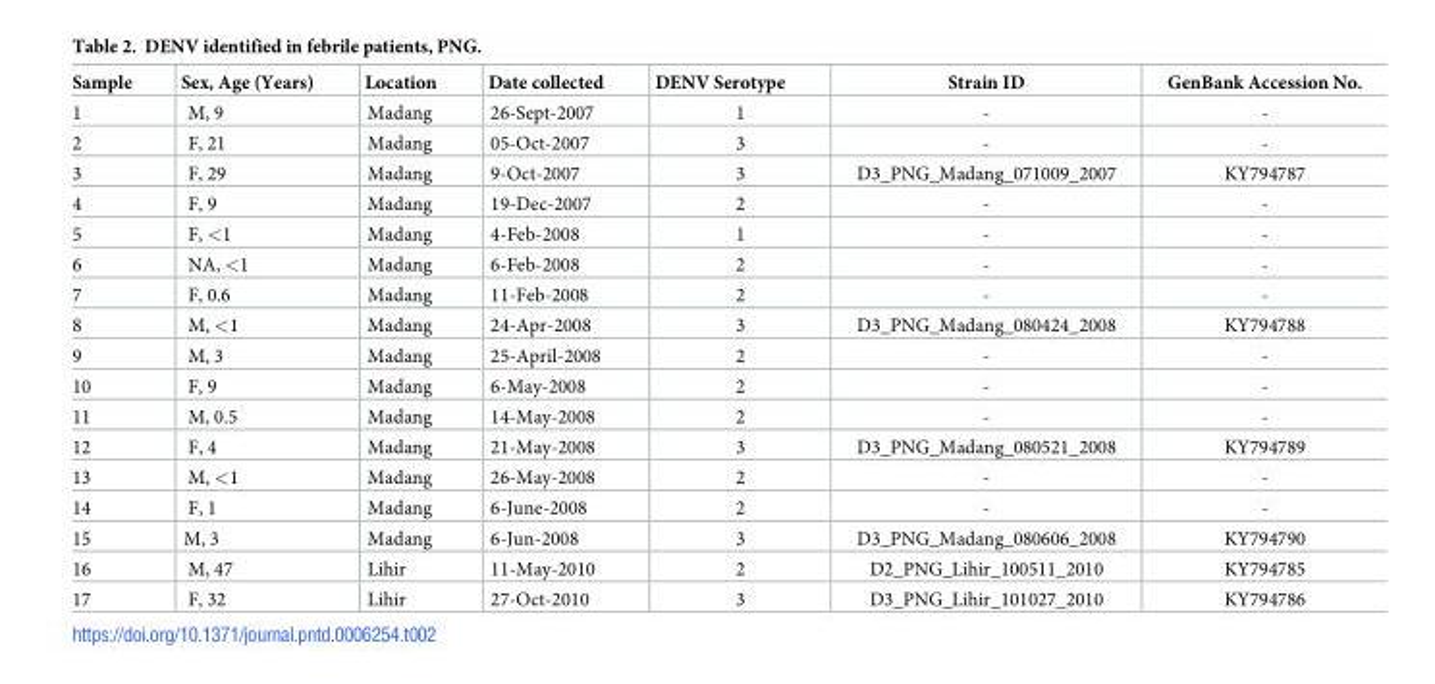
<table><thead><tr><td>Sample</td><td>Sex, Age (Years)</td><td>Location</td><td>Date collected</td><td>DENV Serotype</td><td>Strain ID</td><td>GenBank Accession No.</td></tr></thead><tbody><tr><td>1</td><td>M, 9</td><td>Madang</td><td>26-Sept-2007</td><td>1</td><td>-</td><td>-</td></tr><tr><td>2</td><td>F, 21</td><td>Madang</td><td>05-Oct-2007</td><td>3</td><td>-</td><td>-</td></tr><tr><td>3</td><td>F, 29</td><td>Madang</td><td>9-Oct-2007</td><td>3</td><td>D3_PNG_Madang_071009_2007</td><td>KY794787</td></tr><tr><td>4</td><td>F, 9</td><td>Madang</td><td>19-Dec-2007</td><td>2</td><td>-</td><td>-</td></tr><tr><td>5</td><td>F, &lt;1</td><td>Madang</td><td>4-Feb-2008</td><td>1</td><td>-</td><td>-</td></tr><tr><td>6</td><td>NA, &lt;1</td><td>Madang</td><td>6-Feb-2008</td><td>2</td><td>-</td><td>-</td></tr><tr><td>7</td><td>F, 0.6</td><td>Madang</td><td>11-Feb-2008</td><td>2</td><td>-</td><td>-</td></tr><tr><td>8</td><td>M, &lt;1</td><td>Madang</td><td>24-Apr-2008</td><td>3</td><td>D3_PNG_Madang_080424_2008</td><td>KY794788</td></tr><tr><td>9</td><td>M, 3</td><td>Madang</td><td>25-April-2008</td><td>2</td><td>-</td><td>-</td></tr><tr><td>10</td><td>F, 9</td><td>Madang</td><td>6-May-2008</td><td>2</td><td>-</td><td>-</td></tr><tr><td>11</td><td>M, 0.5</td><td>Madang</td><td>14-May-2008</td><td>2</td><td>-</td><td>-</td></tr><tr><td>12</td><td>F, 4</td><td>Madang</td><td>21-May-2008</td><td>3</td><td>D3_PNG_Madang_080521_2008</td><td>KY794789</td></tr><tr><td>13</td><td>M, &lt;1</td><td>Madang</td><td>26-May-2008</td><td>2</td><td>-</td><td>-</td></tr><tr><td>14</td><td>F, 1</td><td>Madang</td><td>6-June-2008</td><td>2</td><td>-</td><td>-</td></tr><tr><td>15</td><td>M, 3</td><td>Madang</td><td>6-Jun-2008</td><td>3</td><td>D3_PNG_Madang_080606_2008</td><td>KY794790</td></tr><tr><td>16</td><td>M, 47</td><td>Lihir</td><td>11-May-2010</td><td>2</td><td>D2_PNG_Lihir_100511_2010</td><td>KY794785</td></tr><tr><td>17</td><td>F, 32</td><td>Lihir</td><td>27-Oct-2010</td><td>3</td><td>D3_PNG_Lihir_101027_2010</td><td>KY794786</td></tr></tbody></table>